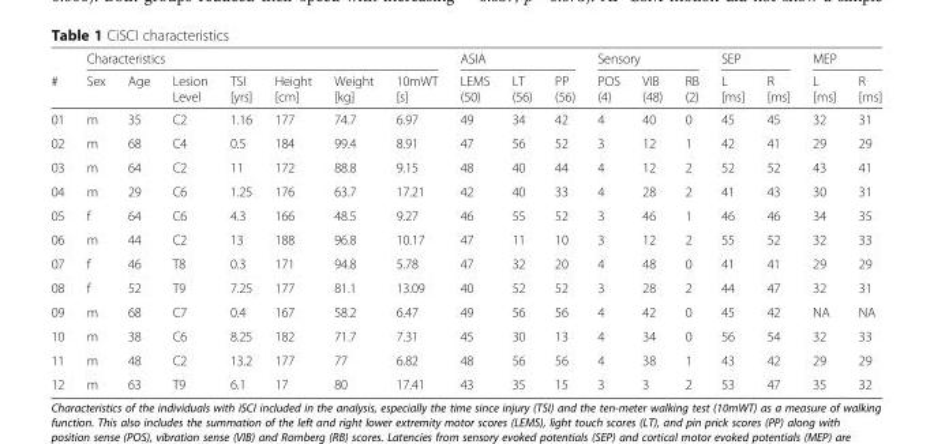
<table><thead><tr><td rowspan="2">#</td><td colspan="7">Characteristics</td><td colspan="3">ASIA</td><td colspan="3">Sensory</td><td colspan="2">SEP</td><td colspan="2">MEP</td></tr><tr><td>Sex</td><td>Age</td><td>Lesion Level</td><td>TSI [yrs]</td><td>Height [cm]</td><td>Weight [kg]</td><td>10mWT [s]</td><td>LEMS (50)</td><td>LT (56)</td><td>PP (56)</td><td>POS (4)</td><td>VIB (48)</td><td>RB (2)</td><td>L [ms]</td><td>R [ms]</td><td>L [ms]</td><td>R [ms]</td></tr></thead><tbody><tr><td>01</td><td>m</td><td>35</td><td>C2</td><td>1.16</td><td>177</td><td>74.7</td><td>6.97</td><td>49</td><td>34</td><td>42</td><td>4</td><td>40</td><td>0</td><td>45</td><td>45</td><td>32</td><td>31</td></tr><tr><td>02</td><td>m</td><td>68</td><td>C4</td><td>0.5</td><td>184</td><td>99.4</td><td>8.91</td><td>47</td><td>56</td><td>52</td><td>3</td><td>12</td><td>1</td><td>42</td><td>41</td><td>29</td><td>29</td></tr><tr><td>03</td><td>m</td><td>64</td><td>C2</td><td>11</td><td>172</td><td>88.8</td><td>9.15</td><td>48</td><td>40</td><td>44</td><td>4</td><td>12</td><td>2</td><td>52</td><td>52</td><td>43</td><td>41</td></tr><tr><td>04</td><td>m</td><td>29</td><td>C6</td><td>1.25</td><td>176</td><td>63.7</td><td>17.21</td><td>42</td><td>40</td><td>33</td><td>4</td><td>28</td><td>2</td><td>41</td><td>43</td><td>30</td><td>31</td></tr><tr><td>05</td><td>f</td><td>64</td><td>C6</td><td>4.3</td><td>166</td><td>48.5</td><td>9.27</td><td>46</td><td>55</td><td>52</td><td>3</td><td>46</td><td>1</td><td>46</td><td>46</td><td>34</td><td>35</td></tr><tr><td>06</td><td>m</td><td>44</td><td>C2</td><td>13</td><td>188</td><td>96.8</td><td>10.17</td><td>47</td><td>11</td><td>10</td><td>3</td><td>12</td><td>2</td><td>55</td><td>52</td><td>32</td><td>33</td></tr><tr><td>07</td><td>f</td><td>46</td><td>T8</td><td>0.3</td><td>171</td><td>94.8</td><td>5.78</td><td>47</td><td>32</td><td>20</td><td>4</td><td>48</td><td>0</td><td>41</td><td>41</td><td>29</td><td>29</td></tr><tr><td>08</td><td>f</td><td>52</td><td>T9</td><td>7.25</td><td>177</td><td>81.1</td><td>13.09</td><td>40</td><td>52</td><td>52</td><td>3</td><td>28</td><td>2</td><td>44</td><td>47</td><td>32</td><td>31</td></tr><tr><td>09</td><td>m</td><td>68</td><td>C7</td><td>0.4</td><td>167</td><td>58.2</td><td>6.47</td><td>49</td><td>56</td><td>56</td><td>4</td><td>42</td><td>0</td><td>45</td><td>42</td><td>NA</td><td>NA</td></tr><tr><td>10</td><td>m</td><td>38</td><td>C6</td><td>8.25</td><td>182</td><td>71.7</td><td>7.31</td><td>45</td><td>30</td><td>13</td><td>4</td><td>34</td><td>0</td><td>56</td><td>54</td><td>32</td><td>33</td></tr><tr><td>11</td><td>m</td><td>48</td><td>C2</td><td>13.2</td><td>177</td><td>77</td><td>6.82</td><td>48</td><td>56</td><td>56</td><td>4</td><td>38</td><td>1</td><td>43</td><td>42</td><td>29</td><td>29</td></tr><tr><td>12</td><td>m</td><td>63</td><td>T9</td><td>6.1</td><td>17</td><td>80</td><td>17.41</td><td>43</td><td>35</td><td>15</td><td>3</td><td>3</td><td>2</td><td>53</td><td>47</td><td>35</td><td>32</td></tr></tbody></table>